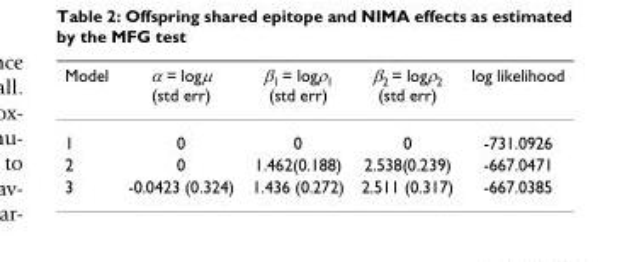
<table><thead><tr><td>Model</td><td>α = logμ (std err)</td><td>β<sub>1</sub> = logρ<sub>1</sub> (std err)</td><td>β<sub>2</sub> = logρ<sub>2</sub> (std err)</td><td>log likelihood</td></tr></thead><tbody><tr><td>1</td><td>0</td><td>0</td><td>0</td><td>-731.0926</td></tr><tr><td>2</td><td>0</td><td>1.462(0.188)</td><td>2.538(0.239)</td><td>-667.0471</td></tr><tr><td>3</td><td>-0.0423 (0.324)</td><td>1.436 (0.272)</td><td>2.511 (0.317)</td><td>-667.0385</td></tr></tbody></table>